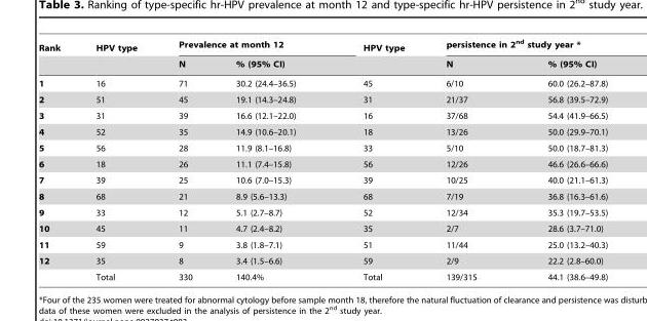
<table><thead><tr><td rowspan="2">Rank</td><td rowspan="2">HPV type</td><td colspan="2">Prevalence at month 12</td><td rowspan="2">HPV type</td><td colspan="2">persistence in 2<sup>nd</sup> study year *</td></tr><tr><td>N</td><td>% (95% CI)</td><td>N</td><td>% (95% CI)</td></tr></thead><tbody><tr><td>1</td><td>16</td><td>71</td><td>30.2 (24.4–36.5)</td><td>45</td><td>6/10</td><td>60.0 (26.2–87.8)</td></tr><tr><td>2</td><td>51</td><td>45</td><td>19.1 (14.3–24.8)</td><td>31</td><td>21/37</td><td>56.8 (39.5–72.9)</td></tr><tr><td>3</td><td>31</td><td>39</td><td>16.6 (12.1–22.0)</td><td>16</td><td>37/68</td><td>54.4 (41.9–66.5)</td></tr><tr><td>4</td><td>52</td><td>35</td><td>14.9 (10.6–20.1)</td><td>18</td><td>13/26</td><td>50.0 (29.9–70.1)</td></tr><tr><td>5</td><td>56</td><td>28</td><td>11.9 (8.1–16.8)</td><td>33</td><td>5/10</td><td>50.0 (18.7–81.3)</td></tr><tr><td>6</td><td>18</td><td>26</td><td>11.1 (7.4–15.8)</td><td>56</td><td>12/26</td><td>46.6 (26.6–66.6)</td></tr><tr><td>7</td><td>39</td><td>25</td><td>10.6 (7.0–15.3)</td><td>39</td><td>10/25</td><td>40.0 (21.1–61.3)</td></tr><tr><td>8</td><td>68</td><td>21</td><td>8.9 (5.6–13.3)</td><td>68</td><td>7/19</td><td>36.8 (16.3–61.6)</td></tr><tr><td>9</td><td>33</td><td>12</td><td>5.1 (2.7–8.7)</td><td>52</td><td>12/34</td><td>35.3 (19.7–53.5)</td></tr><tr><td>10</td><td>45</td><td>11</td><td>4.7 (2.4–8.2)</td><td>35</td><td>2/7</td><td>28.6 (3.7–71.0)</td></tr><tr><td>11</td><td>59</td><td>9</td><td>3.8 (1.8–7.1)</td><td>51</td><td>11/44</td><td>25.0 (13.2–40.3)</td></tr><tr><td rowspan="2">12</td><td>35</td><td>8</td><td>3.4 (1.5–6.6)</td><td>59</td><td>2/9</td><td>22.2 (2.8–60.0)</td></tr><tr><td>Total</td><td>330</td><td>140.4%</td><td>Total</td><td>139/315</td><td>44.1 (38.6–49.8)</td></tr></tbody></table>